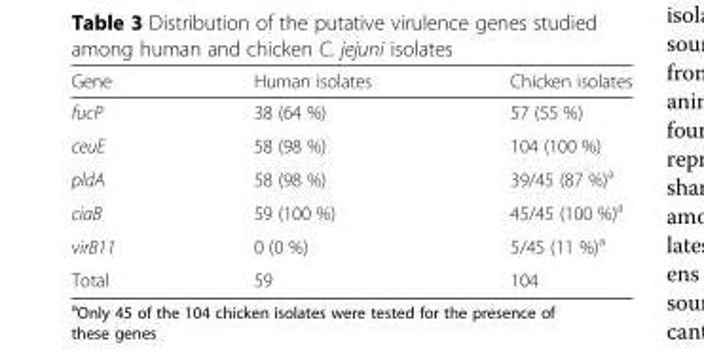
<table><thead><tr><td>Gene</td><td>Human isolates</td><td>Chicken isolates</td></tr></thead><tbody><tr><td>fucP</td><td>38 (64 %)</td><td>57 (55 %)</td></tr><tr><td>ceuE</td><td>58 (98 %)</td><td>104 (100 %)</td></tr><tr><td>pldA</td><td>58 (98 %)</td><td>39/45 (87 %)<sup>a</sup></td></tr><tr><td>ciaB</td><td>59 (100 %)</td><td>45/45 (100 %)<sup>a</sup></td></tr><tr><td>virB11</td><td>0 (0 %)</td><td>5/45 (11 %)<sup>a</sup></td></tr><tr><td>Total</td><td>59</td><td>104</td></tr></tbody></table>